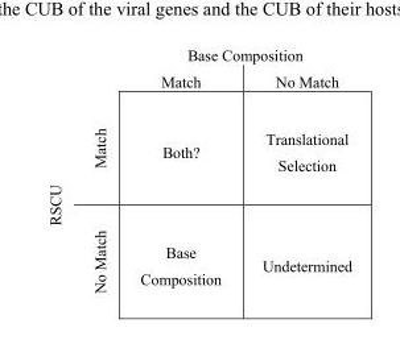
<table><thead><tr><td rowspan="2"></td><td rowspan="2"></td><td colspan="2">Base Composition</td></tr><tr><td>Match</td><td>No Match</td></tr></thead><tbody><tr><td rowspan="2">RSCU</td><td>Match</td><td>Both?</td><td>Translational Selection</td></tr><tr><td>No Match</td><td>Base Composition</td><td>Undetermined</td></tr></tbody></table>